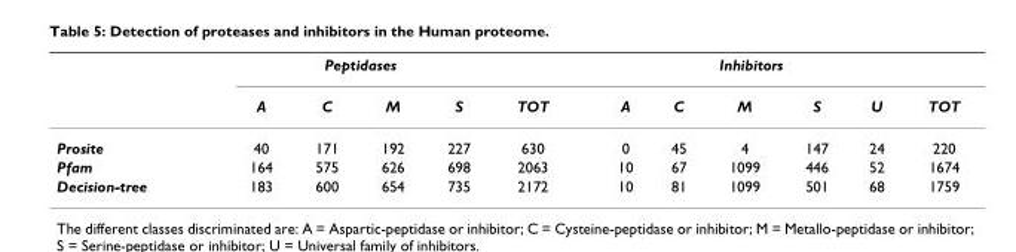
<table><thead><tr><td rowspan="2"></td><td colspan="4">Peptidases</td><td rowspan="2">TOT</td><td colspan="5">Inhibitors</td><td rowspan="2">TOT</td></tr><tr><td>A</td><td>C</td><td>M</td><td>S</td><td>A</td><td>C</td><td>M</td><td>S</td><td>U</td></tr></thead><tbody><tr><td>Prosite</td><td>40</td><td>171</td><td>192</td><td>227</td><td>630</td><td>0</td><td>45</td><td>4</td><td>147</td><td>24</td><td>220</td></tr><tr><td>Pfam</td><td>164</td><td>575</td><td>626</td><td>698</td><td>2063</td><td>10</td><td>67</td><td>1099</td><td>446</td><td>52</td><td>1674</td></tr><tr><td>Decision-tree</td><td>183</td><td>600</td><td>654</td><td>735</td><td>2172</td><td>10</td><td>81</td><td>1099</td><td>501</td><td>68</td><td>1759</td></tr></tbody></table>